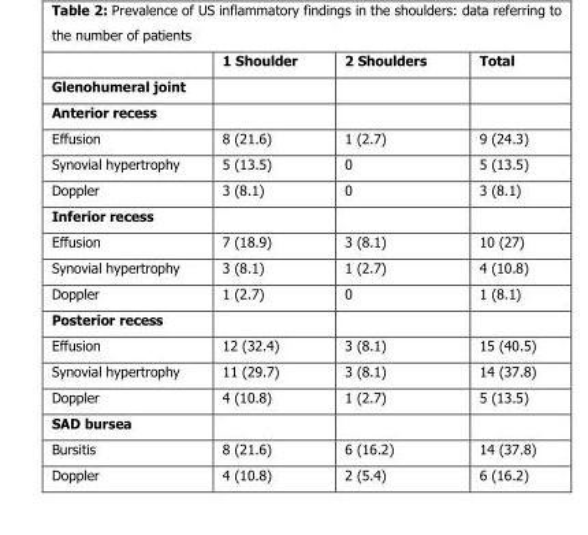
<table><thead><tr><td></td><td>1 Shoulder</td><td>2 Shoulders</td><td>Total</td></tr></thead><tbody><tr><td colspan="4">Glenohumeral joint</td></tr><tr><td colspan="4">Anterior recess</td></tr><tr><td>Effusion</td><td>8 (21.6)</td><td>1 (2.7)</td><td>9 (24.3)</td></tr><tr><td>Synovial hypertrophy</td><td>5 (13.5)</td><td>0</td><td>5 (13.5)</td></tr><tr><td>Doppler</td><td>3 (8.1)</td><td>0</td><td>3 (8.1)</td></tr><tr><td colspan="4">Inferior recess</td></tr><tr><td>Effusion</td><td>7 (18.9)</td><td>3 (8.1)</td><td>10 (27)</td></tr><tr><td>Synovial hypertrophy</td><td>3 (8.1)</td><td>1 (2.7)</td><td>4 (10.8)</td></tr><tr><td>Doppler</td><td>1 (2.7)</td><td>0</td><td>1 (8.1)</td></tr><tr><td colspan="4">Posterior recess</td></tr><tr><td>Effusion</td><td>12 (32.4)</td><td>3 (8.1)</td><td>15 (40.5)</td></tr><tr><td>Synovial hypertrophy</td><td>11 (29.7)</td><td>3 (8.1)</td><td>14 (37.8)</td></tr><tr><td>Doppler</td><td>4 (10.8)</td><td>1 (2.7)</td><td>5 (13.5)</td></tr><tr><td colspan="4">SAD bursea</td></tr><tr><td>Bursitis</td><td>8 (21.6)</td><td>6 (16.2)</td><td>14 (37.8)</td></tr><tr><td>Doppler</td><td>4 (10.8)</td><td>2 (5.4)</td><td>6 (16.2)</td></tr></tbody></table>